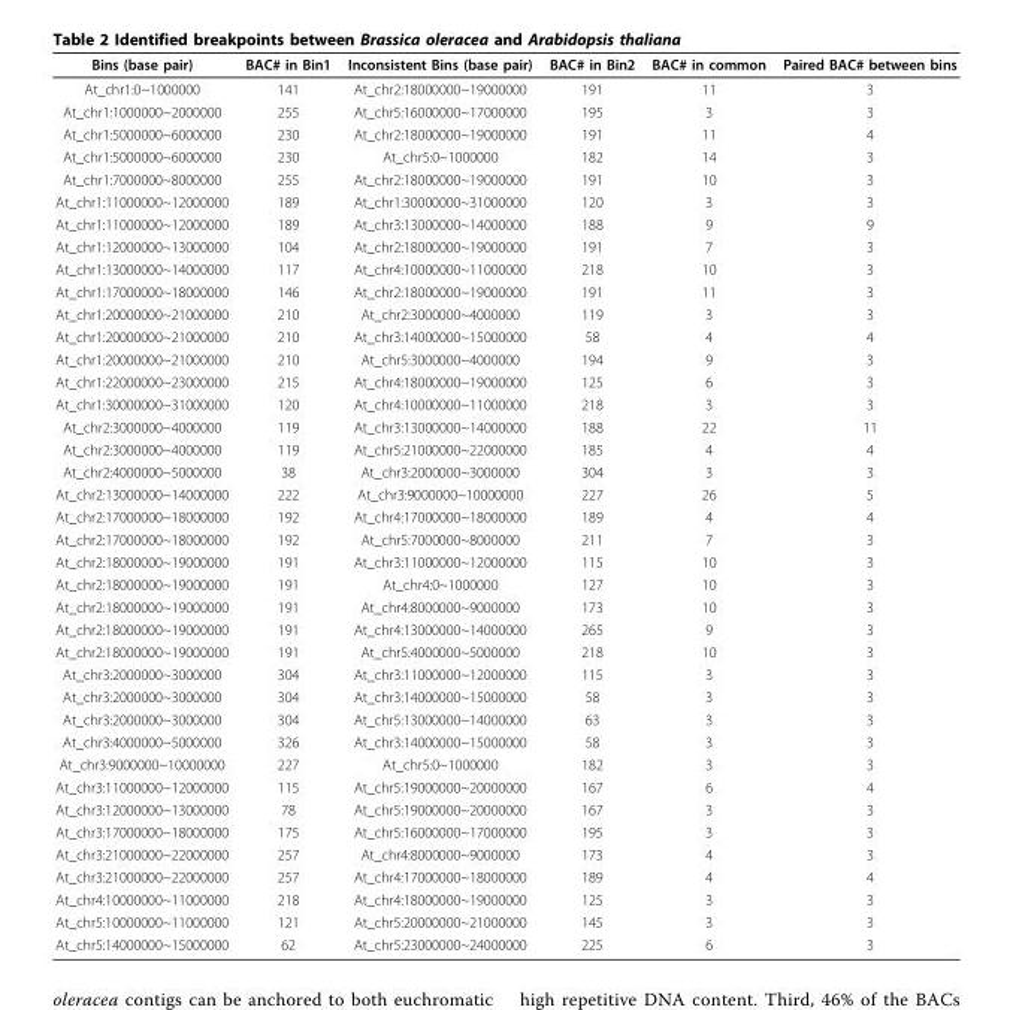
<table><thead><tr><td>Bins (base pair)</td><td>BAC# in Bin1</td><td>Inconsistent Bins (base pair)</td><td>BAC# in Bin2</td><td>BAC# in common</td><td>Paired BAC# between bins</td></tr></thead><tbody><tr><td>At_chr1:0~1000000</td><td>141</td><td>At_chr2:18000000~19000000</td><td>191</td><td>11</td><td>3</td></tr><tr><td>At_chr1:1000000~2000000</td><td>255</td><td>At_chr5:16000000~17000000</td><td>195</td><td>3</td><td>3</td></tr><tr><td>At_chr1:5000000~6000000</td><td>230</td><td>At_chr2:18000000~19000000</td><td>191</td><td>11</td><td>4</td></tr><tr><td>At_chr1:5000000~6000000</td><td>230</td><td>At_chr5:0~1000000</td><td>182</td><td>14</td><td>3</td></tr><tr><td>At_chr1:7000000~8000000</td><td>255</td><td>At_chr2:18000000~19000000</td><td>191</td><td>10</td><td>3</td></tr><tr><td>At_chr1:11000000~12000000</td><td>189</td><td>At_chr1:30000000~31000000</td><td>120</td><td>3</td><td>3</td></tr><tr><td>At_chr1:11000000~12000000</td><td>189</td><td>At_chr3:13000000~14000000</td><td>188</td><td>9</td><td>9</td></tr><tr><td>At_chr1:12000000~13000000</td><td>104</td><td>At_chr2:18000000~19000000</td><td>191</td><td>7</td><td>3</td></tr><tr><td>At_chr1:13000000~14000000</td><td>117</td><td>At_chr4:10000000~11000000</td><td>218</td><td>10</td><td>3</td></tr><tr><td>At_chr1:17000000~18000000</td><td>146</td><td>At_chr2:18000000~19000000</td><td>191</td><td>11</td><td>3</td></tr><tr><td>At_chr1:20000000~21000000</td><td>210</td><td>At_chr2:3000000~4000000</td><td>119</td><td>3</td><td>3</td></tr><tr><td>At_chr1:20000000~21000000</td><td>210</td><td>At_chr3:14000000~15000000</td><td>58</td><td>4</td><td>4</td></tr><tr><td>At_chr1:20000000~21000000</td><td>210</td><td>At_chr5:3000000~4000000</td><td>194</td><td>9</td><td>3</td></tr><tr><td>At_chr1:22000000~23000000</td><td>215</td><td>At_chr4:18000000~19000000</td><td>125</td><td>6</td><td>3</td></tr><tr><td>At_chr1:30000000~31000000</td><td>120</td><td>At_chr4:10000000~11000000</td><td>218</td><td>3</td><td>3</td></tr><tr><td>At_chr2:3000000~4000000</td><td>119</td><td>At_chr3:13000000~14000000</td><td>188</td><td>22</td><td>11</td></tr><tr><td>At_chr2:3000000~4000000</td><td>119</td><td>At_chr5:21000000~22000000</td><td>185</td><td>4</td><td>4</td></tr><tr><td>At_chr2:4000000~5000000</td><td>38</td><td>At_chr3:2000000~3000000</td><td>304</td><td>3</td><td>3</td></tr><tr><td>At_chr2:13000000~14000000</td><td>222</td><td>At_chr3:9000000~10000000</td><td>227</td><td>26</td><td>5</td></tr><tr><td>At_chr2:17000000~18000000</td><td>192</td><td>At_chr4:17000000~18000000</td><td>189</td><td>4</td><td>4</td></tr><tr><td>At_chr2:17000000~18000000</td><td>192</td><td>At_chr5:7000000~8000000</td><td>211</td><td>7</td><td>3</td></tr><tr><td>At_chr2:18000000~19000000</td><td>191</td><td>At_chr3:11000000~12000000</td><td>115</td><td>10</td><td>3</td></tr><tr><td>At_chr2:18000000~19000000</td><td>191</td><td>At_chr4:0~1000000</td><td>127</td><td>10</td><td>3</td></tr><tr><td>At_chr2:18000000~19000000</td><td>191</td><td>At_chr4:8000000~9000000</td><td>173</td><td>10</td><td>3</td></tr><tr><td>At_chr2:18000000~19000000</td><td>191</td><td>At_chr4:13000000~14000000</td><td>265</td><td>9</td><td>3</td></tr><tr><td>At_chr2:18000000~19000000</td><td>191</td><td>At_chr5:4000000~5000000</td><td>218</td><td>10</td><td>3</td></tr><tr><td>At_chr3:2000000~3000000</td><td>304</td><td>At_chr3:11000000~12000000</td><td>115</td><td>3</td><td>3</td></tr><tr><td>At_chr3:2000000~3000000</td><td>304</td><td>At_chr3:14000000~15000000</td><td>58</td><td>3</td><td>3</td></tr><tr><td>At_chr3:2000000~3000000</td><td>304</td><td>At_chr5:13000000~14000000</td><td>63</td><td>3</td><td>3</td></tr><tr><td>At_chr3:4000000~5000000</td><td>326</td><td>At_chr3:14000000~15000000</td><td>58</td><td>3</td><td>3</td></tr><tr><td>At_chr3:9000000~10000000</td><td>227</td><td>At_chr5:0~1000000</td><td>182</td><td>3</td><td>3</td></tr><tr><td>At_chr3:11000000~12000000</td><td>115</td><td>At_chr5:19000000~20000000</td><td>167</td><td>6</td><td>4</td></tr><tr><td>At_chr3:12000000~13000000</td><td>78</td><td>At_chr5:19000000~20000000</td><td>167</td><td>3</td><td>3</td></tr><tr><td>At_chr3:17000000~18000000</td><td>175</td><td>At_chr5:16000000~17000000</td><td>195</td><td>3</td><td>3</td></tr><tr><td>At_chr3:21000000~22000000</td><td>257</td><td>At_chr4:8000000~9000000</td><td>173</td><td>4</td><td>3</td></tr><tr><td>At_chr3:21000000~22000000</td><td>257</td><td>At_chr4:17000000~18000000</td><td>189</td><td>4</td><td>4</td></tr><tr><td>At_chr4:10000000~11000000</td><td>218</td><td>At_chr4:18000000~19000000</td><td>125</td><td>3</td><td>3</td></tr><tr><td>At_chr5:10000000~11000000</td><td>121</td><td>At_chr5:20000000~21000000</td><td>145</td><td>3</td><td>3</td></tr><tr><td>At_chr5:14000000~15000000</td><td>62</td><td>At_chr5:23000000~24000000</td><td>225</td><td>6</td><td>3</td></tr></tbody></table>